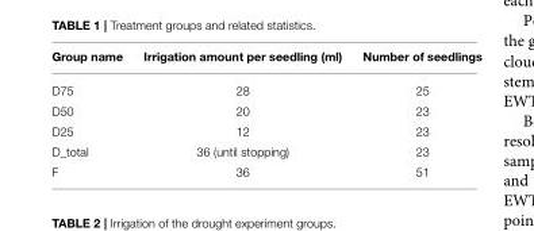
<table><thead><tr><td>Group name</td><td>Irrigation amount per seedling (ml)</td><td>Number of seedlings</td></tr></thead><tbody><tr><td>D75</td><td>28</td><td>25</td></tr><tr><td>D50</td><td>20</td><td>23</td></tr><tr><td>D25</td><td>12</td><td>23</td></tr><tr><td>D_total</td><td>36 (until stopping)</td><td>23</td></tr><tr><td>F</td><td>36</td><td>51</td></tr></tbody></table>